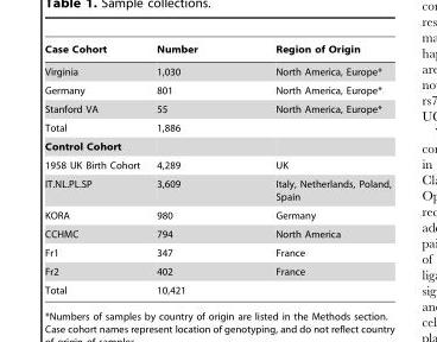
<table><thead><tr><td>Case Cohort</td><td>Number</td><td>Region of Origin</td></tr></thead><tbody><tr><td>Virginia</td><td>1,030</td><td>North America, Europe*</td></tr><tr><td>Germany</td><td>801</td><td>North America, Europe*</td></tr><tr><td>Stanford VA</td><td>55</td><td>North America, Europe*</td></tr><tr><td>Total</td><td>1,886</td><td></td></tr><tr><td colspan="3">Control Cohort</td></tr><tr><td>1958 UK Birth Cohort</td><td>4,289</td><td>UK</td></tr><tr><td>IT.NL.PL.SP</td><td>3,609</td><td>Italy, Netherlands, Poland, Spain</td></tr><tr><td>KORA</td><td>980</td><td>Germany</td></tr><tr><td>CCHMC</td><td>794</td><td>North America</td></tr><tr><td>Fr1</td><td>347</td><td>France</td></tr><tr><td>Fr2</td><td>402</td><td>France</td></tr><tr><td>Total</td><td>10,421</td><td></td></tr></tbody></table>